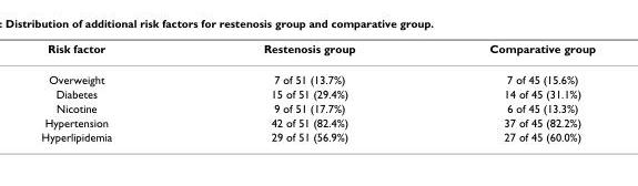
<table><thead><tr><td>Risk factor</td><td>Restenosis group</td><td>Comparative group</td></tr></thead><tbody><tr><td>Overweight</td><td>7 of 51 (13.7%)</td><td>7 of 45 (15.6%)</td></tr><tr><td>Diabetes</td><td>15 of 51 (29.4%)</td><td>14 of 45 (31.1%)</td></tr><tr><td>Nicotine</td><td>9 of 51 (17.7%)</td><td>6 of 45 (13.3%)</td></tr><tr><td>Hypertension</td><td>42 of 51 (82.4%)</td><td>37 of 45 (82.2%)</td></tr><tr><td>Hyperlipidemia</td><td>29 of 51 (56.9%)</td><td>27 of 45 (60.0%)</td></tr></tbody></table>